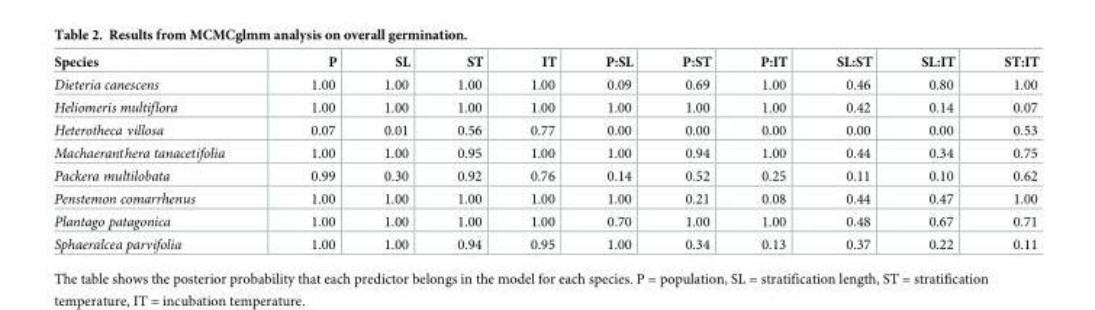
<table><thead><tr><td>Species</td><td>P</td><td>SL</td><td>ST</td><td>IT</td><td>P:SL</td><td>P:ST</td><td>P:IT</td><td>SL:ST</td><td>SL:IT</td><td>ST:IT</td></tr></thead><tbody><tr><td>Dieteria canescens</td><td>1.00</td><td>1.00</td><td>1.00</td><td>1.00</td><td>0.09</td><td>0.69</td><td>1.00</td><td>0.46</td><td>0.80</td><td>1.00</td></tr><tr><td>Heliomeris multiflora</td><td>1.00</td><td>1.00</td><td>1.00</td><td>1.00</td><td>1.00</td><td>1.00</td><td>1.00</td><td>0.42</td><td>0.14</td><td>0.07</td></tr><tr><td>Heterotheca villosa</td><td>0.07</td><td>0.01</td><td>0.56</td><td>0.77</td><td>0.00</td><td>0.00</td><td>0.00</td><td>0.00</td><td>0.00</td><td>0.53</td></tr><tr><td>Machaeranthera tanacetifolia</td><td>1.00</td><td>1.00</td><td>0.95</td><td>1.00</td><td>1.00</td><td>0.94</td><td>1.00</td><td>0.44</td><td>0.34</td><td>0.75</td></tr><tr><td>Packera multilobata</td><td>0.99</td><td>0.30</td><td>0.92</td><td>0.76</td><td>0.14</td><td>0.52</td><td>0.25</td><td>0.11</td><td>0.10</td><td>0.62</td></tr><tr><td>Penstemon comarrhenus</td><td>1.00</td><td>1.00</td><td>1.00</td><td>1.00</td><td>1.00</td><td>0.21</td><td>0.08</td><td>0.44</td><td>0.47</td><td>1.00</td></tr><tr><td>Plantago patagonica</td><td>1.00</td><td>1.00</td><td>1.00</td><td>1.00</td><td>0.70</td><td>1.00</td><td>1.00</td><td>0.48</td><td>0.67</td><td>0.71</td></tr><tr><td>Sphaeralcea parvifolia</td><td>1.00</td><td>1.00</td><td>0.94</td><td>0.95</td><td>1.00</td><td>0.34</td><td>0.13</td><td>0.37</td><td>0.22</td><td>0.11</td></tr></tbody></table>